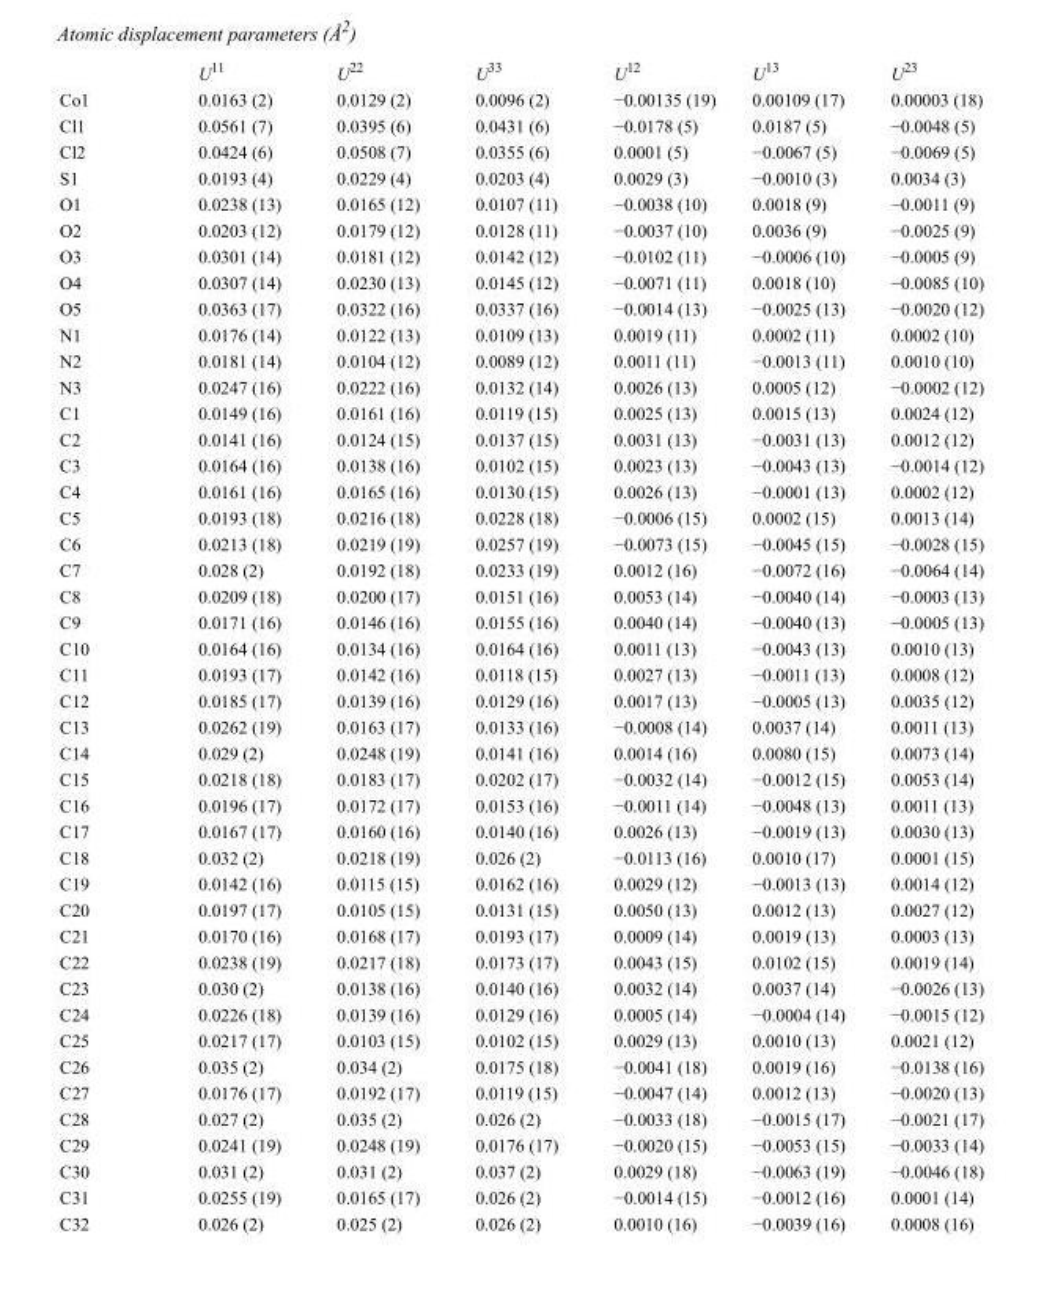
<table><thead><tr><td></td><td>U<sup>11</sup></td><td>U<sup>22</sup></td><td>U<sup>33</sup></td><td>U<sup>12</sup></td><td>U<sup>13</sup></td><td>U<sup>23</sup></td></tr></thead><tbody><tr><td>Co1</td><td>0.0163 (2)</td><td>0.0129 (2)</td><td>0.0096 (2)</td><td>−0.00135 (19)</td><td>0.00109 (17)</td><td>0.00003 (18)</td></tr><tr><td>Cl1</td><td>0.0561 (7)</td><td>0.0395 (6)</td><td>0.0431 (6)</td><td>−0.0178 (5)</td><td>0.0187 (5)</td><td>−0.0048 (5)</td></tr><tr><td>Cl2</td><td>0.0424 (6)</td><td>0.0508 (7)</td><td>0.0355 (6)</td><td>0.0001 (5)</td><td>−0.0067 (5)</td><td>−0.0069 (5)</td></tr><tr><td>S1</td><td>0.0193 (4)</td><td>0.0229 (4)</td><td>0.0203 (4)</td><td>0.0029 (3)</td><td>−0.0010 (3)</td><td>0.0034 (3)</td></tr><tr><td>O1</td><td>0.0238 (13)</td><td>0.0165 (12)</td><td>0.0107 (11)</td><td>−0.0038 (10)</td><td>0.0018 (9)</td><td>−0.0011 (9)</td></tr><tr><td>O2</td><td>0.0203 (12)</td><td>0.0179 (12)</td><td>0.0128 (11)</td><td>−0.0037 (10)</td><td>0.0036 (9)</td><td>−0.0025 (9)</td></tr><tr><td>O3</td><td>0.0301 (14)</td><td>0.0181 (12)</td><td>0.0142 (12)</td><td>−0.0102 (11)</td><td>−0.0006 (10)</td><td>−0.0005 (9)</td></tr><tr><td>O4</td><td>0.0307 (14)</td><td>0.0230 (13)</td><td>0.0145 (12)</td><td>−0.0071 (11)</td><td>0.0018 (10)</td><td>−0.0085 (10)</td></tr><tr><td>O5</td><td>0.0363 (17)</td><td>0.0322 (16)</td><td>0.0337 (16)</td><td>−0.0014 (13)</td><td>−0.0025 (13)</td><td>−0.0020 (12)</td></tr><tr><td>N1</td><td>0.0176 (14)</td><td>0.0122 (13)</td><td>0.0109 (13)</td><td>0.0019 (11)</td><td>0.0002 (11)</td><td>0.0002 (10)</td></tr><tr><td>N2</td><td>0.0181 (14)</td><td>0.0104 (12)</td><td>0.0089 (12)</td><td>0.0011 (11)</td><td>−0.0013 (11)</td><td>0.0010 (10)</td></tr><tr><td>N3</td><td>0.0247 (16)</td><td>0.0222 (16)</td><td>0.0132 (14)</td><td>0.0026 (13)</td><td>0.0005 (12)</td><td>−0.0002 (12)</td></tr><tr><td>C1</td><td>0.0149 (16)</td><td>0.0161 (16)</td><td>0.0119 (15)</td><td>0.0025 (13)</td><td>0.0015 (13)</td><td>0.0024 (12)</td></tr><tr><td>C2</td><td>0.0141 (16)</td><td>0.0124 (15)</td><td>0.0137 (15)</td><td>0.0031 (13)</td><td>−0.0031 (13)</td><td>0.0012 (12)</td></tr><tr><td>C3</td><td>0.0164 (16)</td><td>0.0138 (16)</td><td>0.0102 (15)</td><td>0.0023 (13)</td><td>−0.0043 (13)</td><td>−0.0014 (12)</td></tr><tr><td>C4</td><td>0.0161 (16)</td><td>0.0165 (16)</td><td>0.0130 (15)</td><td>0.0026 (13)</td><td>−0.0001 (13)</td><td>0.0002 (12)</td></tr><tr><td>C5</td><td>0.0193 (18)</td><td>0.0216 (18)</td><td>0.0228 (18)</td><td>−0.0006 (15)</td><td>0.0002 (15)</td><td>0.0013 (14)</td></tr><tr><td>C6</td><td>0.0213 (18)</td><td>0.0219 (19)</td><td>0.0257 (19)</td><td>−0.0073 (15)</td><td>−0.0045 (15)</td><td>−0.0028 (15)</td></tr><tr><td>C7</td><td>0.028 (2)</td><td>0.0192 (18)</td><td>0.0233 (19)</td><td>0.0012 (16)</td><td>−0.0072 (16)</td><td>−0.0064 (14)</td></tr><tr><td>C8</td><td>0.0209 (18)</td><td>0.0200 (17)</td><td>0.0151 (16)</td><td>0.0053 (14)</td><td>−0.0040 (14)</td><td>−0.0003 (13)</td></tr><tr><td>C9</td><td>0.0171 (16)</td><td>0.0146 (16)</td><td>0.0155 (16)</td><td>0.0040 (14)</td><td>−0.0040 (13)</td><td>−0.0005 (13)</td></tr><tr><td>C10</td><td>0.0164 (16)</td><td>0.0134 (16)</td><td>0.0164 (16)</td><td>0.0011 (13)</td><td>−0.0043 (13)</td><td>0.0010 (13)</td></tr><tr><td>C11</td><td>0.0193 (17)</td><td>0.0142 (16)</td><td>0.0118 (15)</td><td>0.0027 (13)</td><td>−0.0011 (13)</td><td>0.0008 (12)</td></tr><tr><td>C12</td><td>0.0185 (17)</td><td>0.0139 (16)</td><td>0.0129 (16)</td><td>0.0017 (13)</td><td>−0.0005 (13)</td><td>0.0035 (12)</td></tr><tr><td>C13</td><td>0.0262 (19)</td><td>0.0163 (17)</td><td>0.0133 (16)</td><td>−0.0008 (14)</td><td>0.0037 (14)</td><td>0.0011 (13)</td></tr><tr><td>C14</td><td>0.029 (2)</td><td>0.0248 (19)</td><td>0.0141 (16)</td><td>0.0014 (16)</td><td>0.0080 (15)</td><td>0.0073 (14)</td></tr><tr><td>C15</td><td>0.0218 (18)</td><td>0.0183 (17)</td><td>0.0202 (17)</td><td>−0.0032 (14)</td><td>−0.0012 (15)</td><td>0.0053 (14)</td></tr><tr><td>C16</td><td>0.0196 (17)</td><td>0.0172 (17)</td><td>0.0153 (16)</td><td>−0.0011 (14)</td><td>−0.0048 (13)</td><td>0.0011 (13)</td></tr><tr><td>C17</td><td>0.0167 (17)</td><td>0.0160 (16)</td><td>0.0140 (16)</td><td>0.0026 (13)</td><td>−0.0019 (13)</td><td>0.0030 (13)</td></tr><tr><td>C18</td><td>0.032 (2)</td><td>0.0218 (19)</td><td>0.026 (2)</td><td>−0.0113 (16)</td><td>0.0010 (17)</td><td>0.0001 (15)</td></tr><tr><td>C19</td><td>0.0142 (16)</td><td>0.0115 (15)</td><td>0.0162 (16)</td><td>0.0029 (12)</td><td>−0.0013 (13)</td><td>0.0014 (12)</td></tr><tr><td>C20</td><td>0.0197 (17)</td><td>0.0105 (15)</td><td>0.0131 (15)</td><td>0.0050 (13)</td><td>0.0012 (13)</td><td>0.0027 (12)</td></tr><tr><td>C21</td><td>0.0170 (16)</td><td>0.0168 (17)</td><td>0.0193 (17)</td><td>0.0009 (14)</td><td>0.0019 (13)</td><td>0.0003 (13)</td></tr><tr><td>C22</td><td>0.0238 (19)</td><td>0.0217 (18)</td><td>0.0173 (17)</td><td>0.0043 (15)</td><td>0.0102 (15)</td><td>0.0019 (14)</td></tr><tr><td>C23</td><td>0.030 (2)</td><td>0.0138 (16)</td><td>0.0140 (16)</td><td>0.0032 (14)</td><td>0.0037 (14)</td><td>−0.0026 (13)</td></tr><tr><td>C24</td><td>0.0226 (18)</td><td>0.0139 (16)</td><td>0.0129 (16)</td><td>0.0005 (14)</td><td>−0.0004 (14)</td><td>−0.0015 (12)</td></tr><tr><td>C25</td><td>0.0217 (17)</td><td>0.0103 (15)</td><td>0.0102 (15)</td><td>0.0029 (13)</td><td>0.0010 (13)</td><td>0.0021 (12)</td></tr><tr><td>C26</td><td>0.035 (2)</td><td>0.034 (2)</td><td>0.0175 (18)</td><td>−0.0041 (18)</td><td>0.0019 (16)</td><td>−0.0138 (16)</td></tr><tr><td>C27</td><td>0.0176 (17)</td><td>0.0192 (17)</td><td>0.0119 (15)</td><td>−0.0047 (14)</td><td>0.0012 (13)</td><td>−0.0020 (13)</td></tr><tr><td>C28</td><td>0.027 (2)</td><td>0.035 (2)</td><td>0.026 (2)</td><td>−0.0033 (18)</td><td>−0.0015 (17)</td><td>−0.0021 (17)</td></tr><tr><td>C29</td><td>0.0241 (19)</td><td>0.0248 (19)</td><td>0.0176 (17)</td><td>−0.0020 (15)</td><td>−0.0053 (15)</td><td>−0.0033 (14)</td></tr><tr><td>C30</td><td>0.031 (2)</td><td>0.031 (2)</td><td>0.037 (2)</td><td>0.0029 (18)</td><td>−0.0063 (19)</td><td>−0.0046 (18)</td></tr><tr><td>C31</td><td>0.0255 (19)</td><td>0.0165 (17)</td><td>0.026 (2)</td><td>−0.0014 (15)</td><td>−0.0012 (16)</td><td>0.0001 (14)</td></tr><tr><td>C32</td><td>0.026 (2)</td><td>0.025 (2)</td><td>0.026 (2)</td><td>0.0010 (16)</td><td>−0.0039 (16)</td><td>0.0008 (16)</td></tr></tbody></table>